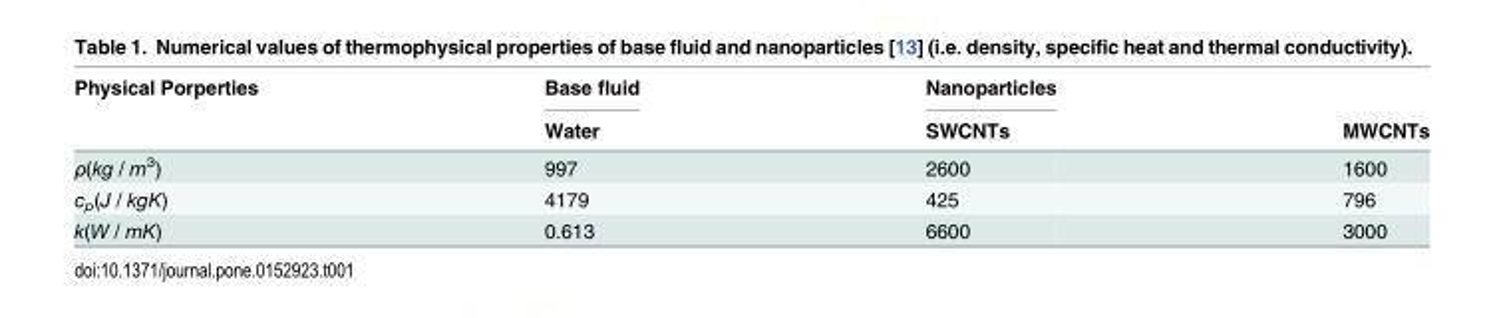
<table><thead><tr><td rowspan="2">Physical Porperties</td><td rowspan="2">Base fluid Water</td><td rowspan="2">Nanoparticles SWCNTs</td><td rowspan="2">MWCNTs</td></tr><tr></tr></thead><tbody><tr><td>ρ(kg / m<sup>3</sup>)</td><td>997</td><td>2600</td><td>1600</td></tr><tr><td>c<sub>p</sub>(J / kgK)</td><td>4179</td><td>425</td><td>796</td></tr><tr><td>k(W / mK)</td><td>0.613</td><td>6600</td><td>3000</td></tr></tbody></table>